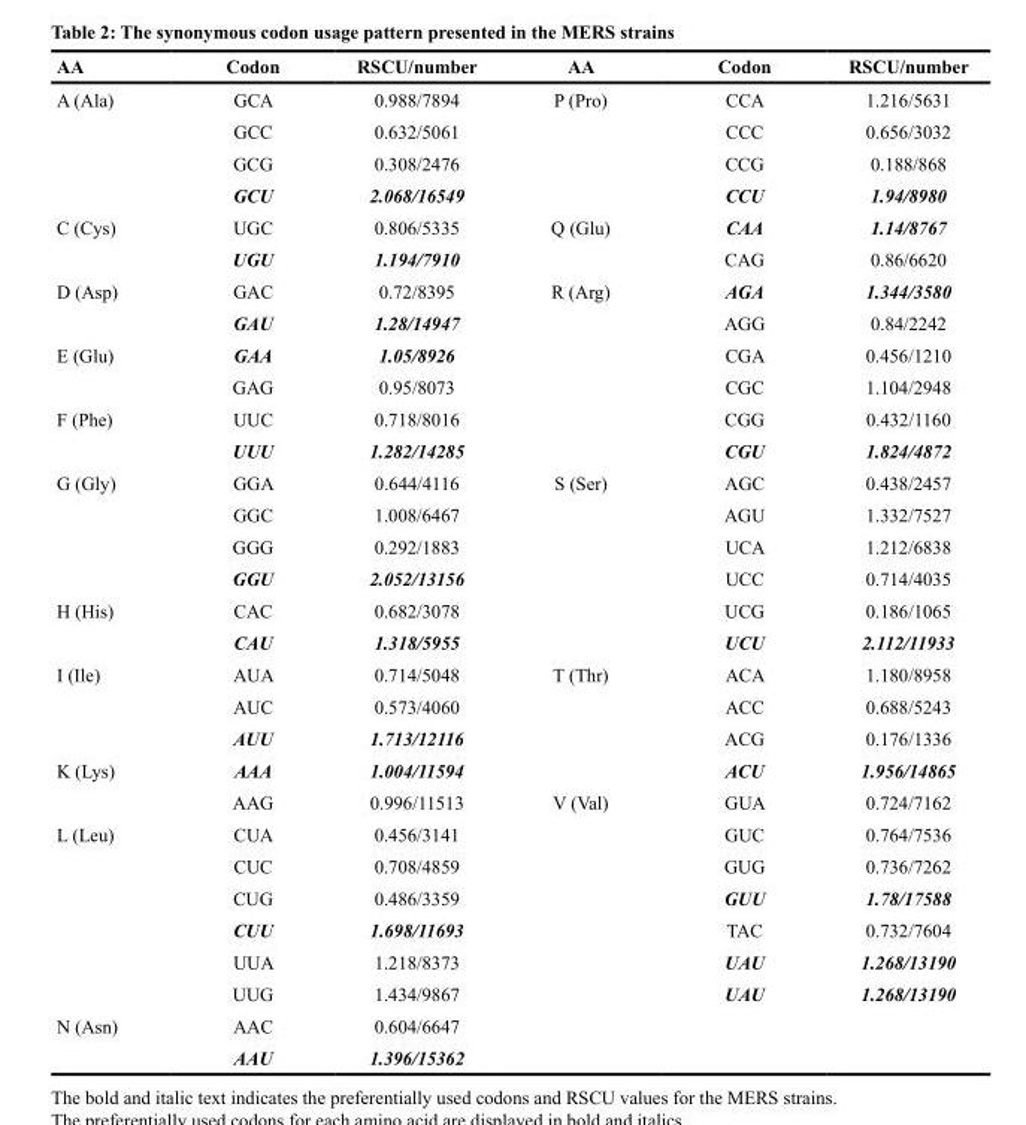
<table><thead><tr><td>AA</td><td>Codon</td><td>RSCU/number</td><td>AA</td><td>Codon</td><td>RSCU/number</td></tr></thead><tbody><tr><td rowspan="4">A (Ala)</td><td>GCA</td><td>0.988/7894</td><td>P (Pro)</td><td>CCA</td><td>1.216/5631</td></tr><tr><td>GCC</td><td>0.632/5061</td><td></td><td>CCC</td><td>0.656/3032</td></tr><tr><td>GCG</td><td>0.308/2476</td><td></td><td>CCG</td><td>0.188/868</td></tr><tr><td>GCU</td><td>2.068/16549</td><td></td><td>CCU</td><td>1.94/8980</td></tr><tr><td rowspan="2">C (Cys)</td><td>UGC</td><td>0.806/5335</td><td>Q (Glu)</td><td>CAA</td><td>1.14/8767</td></tr><tr><td>UGU</td><td>1.194/7910</td><td></td><td>CAG</td><td>0.86/6620</td></tr><tr><td rowspan="2">D (Asp)</td><td>GAC</td><td>0.72/8395</td><td>R (Arg)</td><td>AGA</td><td>1.344/3580</td></tr><tr><td>GAU</td><td>1.28/14947</td><td></td><td>AGG</td><td>0.84/2242</td></tr><tr><td rowspan="2">E (Glu)</td><td>GAA</td><td>1.05/8926</td><td></td><td>CGA</td><td>0.456/1210</td></tr><tr><td>GAG</td><td>0.95/8073</td><td></td><td>CGC</td><td>1.104/2948</td></tr><tr><td rowspan="2">F (Phe)</td><td>UUC</td><td>0.718/8016</td><td></td><td>CGG</td><td>0.432/1160</td></tr><tr><td>UUU</td><td>1.282/14285</td><td></td><td>CGU</td><td>1.824/4872</td></tr><tr><td rowspan="4">G (Gly)</td><td>GGA</td><td>0.644/4116</td><td>S (Ser)</td><td>AGC</td><td>0.438/2457</td></tr><tr><td>GGC</td><td>1.008/6467</td><td></td><td>AGU</td><td>1.332/7527</td></tr><tr><td>GGG</td><td>0.292/1883</td><td></td><td>UCA</td><td>1.212/6838</td></tr><tr><td>GGU</td><td>2.052/13156</td><td></td><td>UCC</td><td>0.714/4035</td></tr><tr><td rowspan="2">H (His)</td><td>CAC</td><td>0.682/3078</td><td></td><td>UCG</td><td>0.186/1065</td></tr><tr><td>CAU</td><td>1.318/5955</td><td></td><td>UCU</td><td>2.112/11933</td></tr><tr><td rowspan="3">I (Ile)</td><td>AUA</td><td>0.714/5048</td><td>T (Thr)</td><td>ACA</td><td>1.180/8958</td></tr><tr><td>AUC</td><td>0.573/4060</td><td></td><td>ACC</td><td>0.688/5243</td></tr><tr><td>AUU</td><td>1.713/12116</td><td></td><td>ACG</td><td>0.176/1336</td></tr><tr><td rowspan="2">K (Lys)</td><td>AAA</td><td>1.004/11594</td><td></td><td>ACU</td><td>1.956/14865</td></tr><tr><td>AAG</td><td>0.996/11513</td><td>V (Val)</td><td>GUA</td><td>0.724/7162</td></tr><tr><td rowspan="6">L (Leu)</td><td>CUA</td><td>0.456/3141</td><td></td><td>GUC</td><td>0.764/7536</td></tr><tr><td>CUC</td><td>0.708/4859</td><td></td><td>GUG</td><td>0.736/7262</td></tr><tr><td>CUG</td><td>0.486/3359</td><td></td><td>GUU</td><td>1.78/17588</td></tr><tr><td>CUU</td><td>1.698/11693</td><td></td><td>TAC</td><td>0.732/7604</td></tr><tr><td>UUA</td><td>1.218/8373</td><td></td><td>UAU</td><td>1.268/13190</td></tr><tr><td>UUG</td><td>1.434/9867</td><td></td><td>UAU</td><td>1.268/13190</td></tr><tr><td rowspan="2">N (Asn)</td><td>AAC</td><td>0.604/6647</td><td></td><td></td><td></td></tr><tr><td>AAU</td><td>1.396/15362</td><td></td><td></td><td></td></tr></tbody></table>